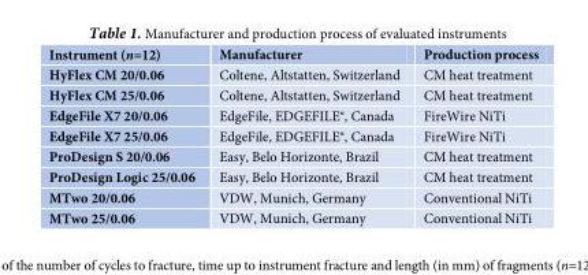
<table><thead><tr><td>Instrument (n=12)</td><td>Manufacturer</td><td>Production process</td></tr></thead><tbody><tr><td>HyFlex CM 20/0.06</td><td>Coltene, Altstatten, Switzerland</td><td>CM heat treatment</td></tr><tr><td>HyFlex CM 25/0.06</td><td>Coltene, Altstatten, Switzerland</td><td>CM heat treatment</td></tr><tr><td>EdgeFile X7 20/0.06</td><td>EdgeFile, EDGEFILE®, Canada</td><td>FireWire NiTi</td></tr><tr><td>EdgeFile X7 25/0.06</td><td>EdgeFile, EDGEFILE®, Canada</td><td>FireWire NiTi</td></tr><tr><td>ProDesign S 20/0.06</td><td>Easy, Belo Horizonte, Brazil</td><td>CM heat treatment</td></tr><tr><td>ProDesign Logic 25/0.06</td><td>Easy, Belo Horizonte, Brazil</td><td>CM heat treatment</td></tr><tr><td>MTwo 20/0.06</td><td>VDW, Munich, Germany</td><td>Conventional NiTi</td></tr><tr><td>MTwo 25/0.06</td><td>VDW, Munich, Germany</td><td>Conventional NiTi</td></tr></tbody></table>